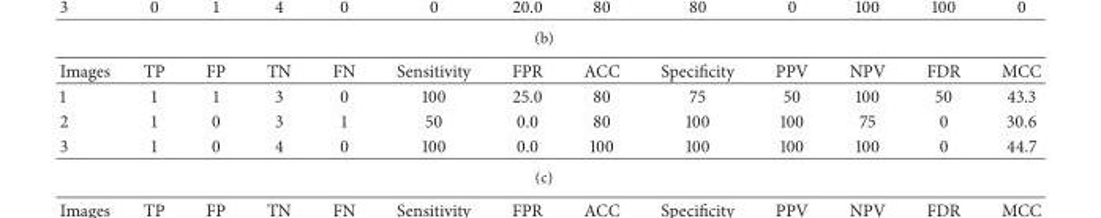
<table><thead><tr><td>Images</td><td>TP</td><td>FP</td><td>TN</td><td>FN</td><td>Sensitivity</td><td>FPR</td><td>ACC</td><td>Specificity</td><td>PPV</td><td>NPV</td><td>FDR</td><td>MCC</td></tr></thead><tbody><tr><td>1</td><td>1</td><td>1</td><td>3</td><td>0</td><td>100</td><td>25.0</td><td>80</td><td>75</td><td>50</td><td>100</td><td>50</td><td>43.3</td></tr><tr><td>2</td><td>1</td><td>0</td><td>3</td><td>1</td><td>50</td><td>0.0</td><td>80</td><td>100</td><td>100</td><td>75</td><td>0</td><td>30.6</td></tr><tr><td>3</td><td>1</td><td>0</td><td>4</td><td>0</td><td>100</td><td>0.0</td><td>100</td><td>100</td><td>100</td><td>100</td><td>0</td><td>44.7</td></tr></tbody></table>